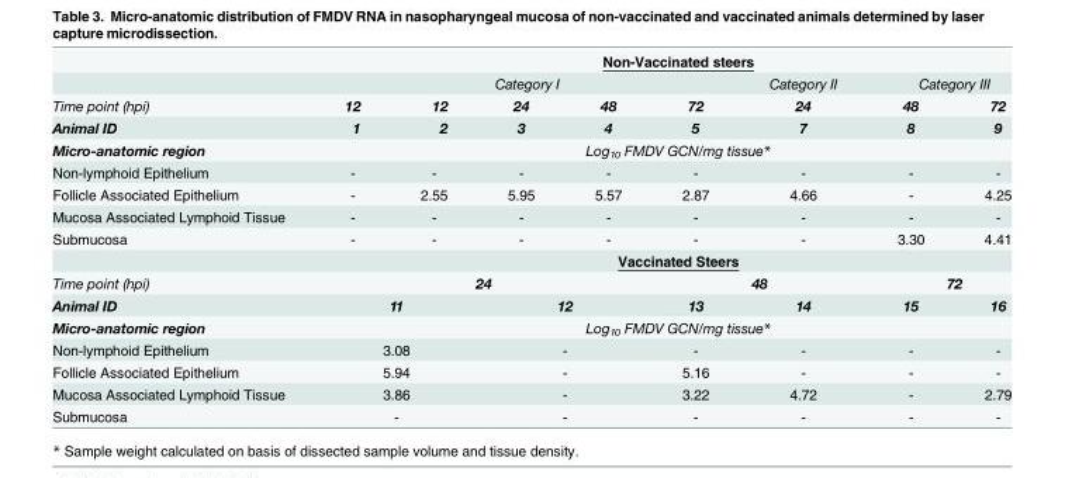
<table><thead><tr><td rowspan="3">Time point (hpi)</td><td colspan="8">Non-Vaccinated steers</td></tr><tr><td colspan="5">Category I</td><td rowspan="2">Category II 24</td><td colspan="2">Category III</td></tr><tr><td>12</td><td>12</td><td>24</td><td>48</td><td>72</td><td>48</td><td>72</td></tr></thead><tbody><tr><td>Animal ID</td><td>1</td><td>2</td><td>3</td><td>4</td><td>5</td><td>7</td><td>8</td><td>9</td></tr><tr><td>Micro-anatomic region</td><td colspan="8">Log<sub>10</sub> FMDV GCN/mg tissue*</td></tr><tr><td>Non-lymphoid Epithelium</td><td>-</td><td>-</td><td>-</td><td>-</td><td>-</td><td>-</td><td>-</td><td>-</td></tr><tr><td>Follicle Associated Epithelium</td><td>-</td><td>2.55</td><td>5.95</td><td>5.57</td><td>2.87</td><td>4.66</td><td>-</td><td>4.25</td></tr><tr><td>Mucosa Associated Lymphoid Tissue</td><td>-</td><td>-</td><td>-</td><td>-</td><td>-</td><td>-</td><td>-</td><td>-</td></tr><tr><td rowspan="2">Submucosa</td><td>-</td><td>-</td><td>-</td><td>-</td><td>-</td><td>-</td><td>3.30</td><td>4.41</td></tr><tr><td colspan="8">Vaccinated Steers</td></tr><tr><td>Time point (hpi)</td><td colspan="4">24</td><td colspan="2">48</td><td colspan="2">72</td></tr><tr><td>Animal ID</td><td colspan="2">11</td><td colspan="2">12</td><td>13</td><td>14</td><td>15</td><td>16</td></tr><tr><td>Micro-anatomic region</td><td colspan="8">Log<sub>10</sub> FMDV GCN/mg tissue*</td></tr><tr><td>Non-lymphoid Epithelium</td><td colspan="2">3.08</td><td colspan="2">-</td><td>-</td><td>-</td><td>-</td><td>-</td></tr><tr><td>Follicle Associated Epithelium</td><td colspan="2">5.94</td><td colspan="2">-</td><td>5.16</td><td>-</td><td>-</td><td>-</td></tr><tr><td>Mucosa Associated Lymphoid Tissue</td><td colspan="2">3.86</td><td colspan="2">-</td><td>3.22</td><td>4.72</td><td>-</td><td>2.79</td></tr><tr><td>Submucosa</td><td colspan="2">-</td><td colspan="2">-</td><td>-</td><td>-</td><td>-</td><td>-</td></tr></tbody></table>